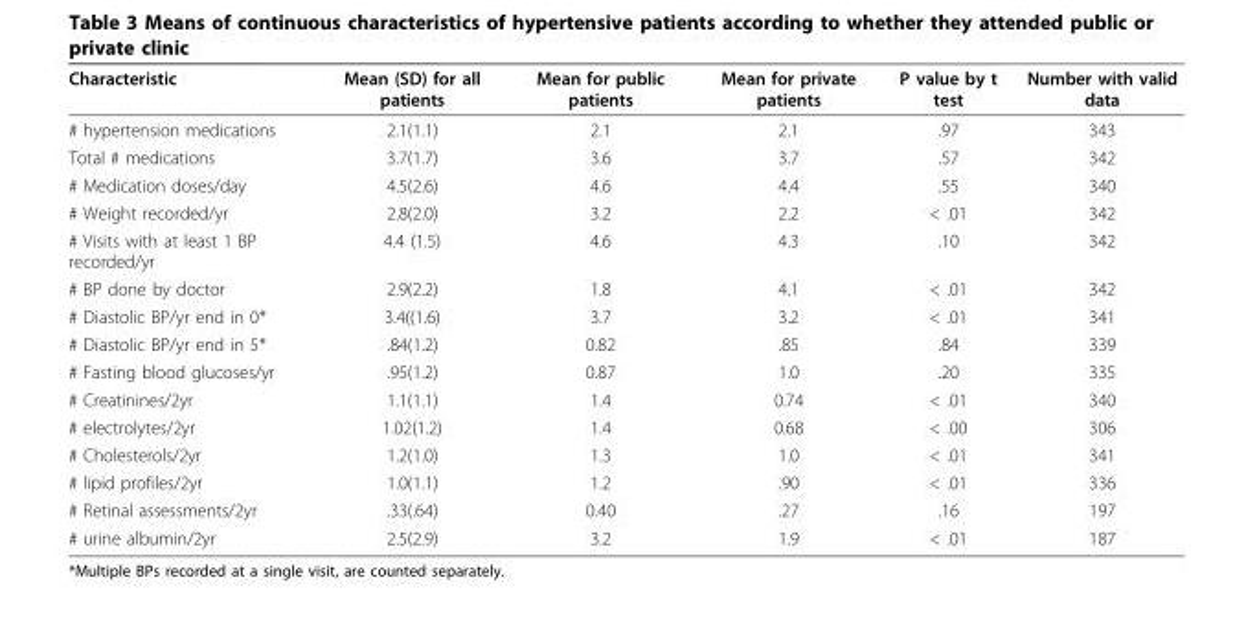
<table><thead><tr><td>Characteristic</td><td>Mean (SD) for all patients</td><td>Mean for public patients</td><td>Mean for private patients</td><td>P value by t test</td><td>Number with valid data</td></tr></thead><tbody><tr><td># hypertension medications</td><td>2.1(1.1)</td><td>2.1</td><td>2.1</td><td>.97</td><td>343</td></tr><tr><td>Total # medications</td><td>3.7(1.7)</td><td>3.6</td><td>3.7</td><td>.57</td><td>342</td></tr><tr><td># Medication doses/day</td><td>4.5(2.6)</td><td>4.6</td><td>4.4</td><td>.55</td><td>340</td></tr><tr><td># Weight recorded/yr</td><td>2.8(2.0)</td><td>3.2</td><td>2.2</td><td>&lt; .01</td><td>342</td></tr><tr><td># Visits with at least 1 BP recorded/yr</td><td>4.4 (1.5)</td><td>4.6</td><td>4.3</td><td>.10</td><td>342</td></tr><tr><td># BP done by doctor</td><td>2.9(2.2)</td><td>1.8</td><td>4.1</td><td>&lt; .01</td><td>342</td></tr><tr><td># Diastolic BP/yr end in 0*</td><td>3.4((1.6)</td><td>3.7</td><td>3.2</td><td>&lt; .01</td><td>341</td></tr><tr><td># Diastolic BP/yr end in 5*</td><td>.84(1.2)</td><td>0.82</td><td>.85</td><td>.84</td><td>339</td></tr><tr><td># Fasting blood glucoses/yr</td><td>.95(1.2)</td><td>0.87</td><td>1.0</td><td>.20</td><td>335</td></tr><tr><td># Creatinines/2yr</td><td>1.1(1.1)</td><td>1.4</td><td>0.74</td><td>&lt; .01</td><td>340</td></tr><tr><td># electrolytes/2yr</td><td>1.02(1.2)</td><td>1.4</td><td>0.68</td><td>&lt; .00</td><td>306</td></tr><tr><td># Cholesterols/2yr</td><td>1.2(1.0)</td><td>1.3</td><td>1.0</td><td>&lt; .01</td><td>341</td></tr><tr><td># lipid profiles/2yr</td><td>1.0(1.1)</td><td>1.2</td><td>.90</td><td>&lt; .01</td><td>336</td></tr><tr><td># Retinal assessments/2yr</td><td>.33(.64)</td><td>0.40</td><td>.27</td><td>.16</td><td>197</td></tr><tr><td># urine albumin/2yr</td><td>2.5(2.9)</td><td>3.2</td><td>1.9</td><td>&lt; .01</td><td>187</td></tr></tbody></table>